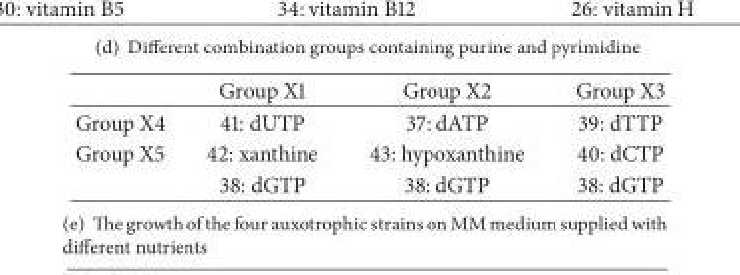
<table><thead><tr><td></td><td>Group X1</td><td>Group X2</td><td>Group X3</td></tr></thead><tbody><tr><td>Group X4</td><td>41: dUTP</td><td>37: dATP</td><td>39: dTTP</td></tr><tr><td rowspan="2">Group X5</td><td>42: xanthine</td><td>43: hypoxanthine</td><td>40: dCTP</td></tr><tr><td>38: dGTP</td><td>38: dGTP</td><td>38: dGTP</td></tr></tbody></table>